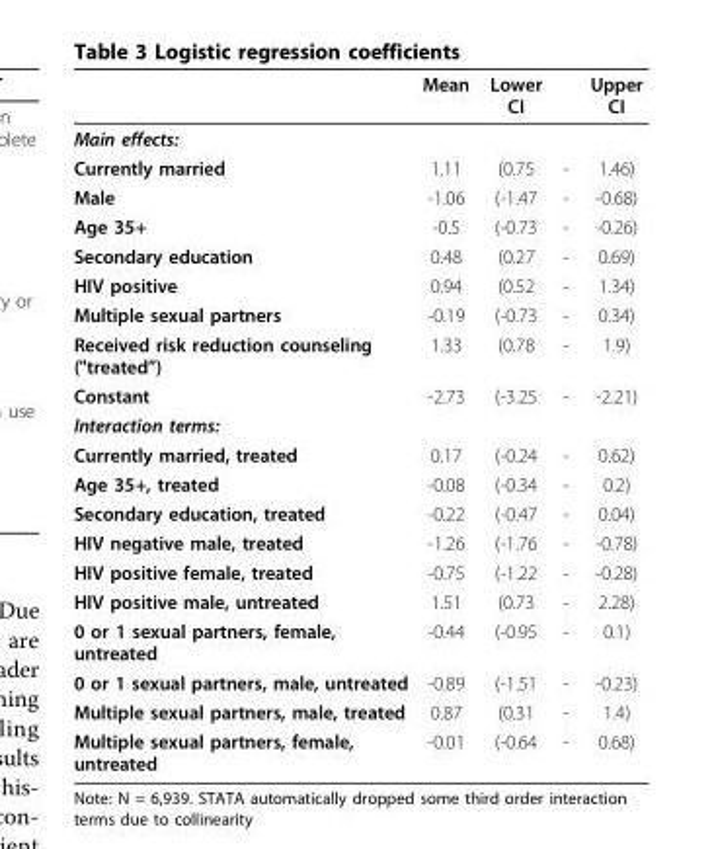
<table><thead><tr><td></td><td>Mean</td><td>Lower CI</td><td></td><td>Upper CI</td></tr></thead><tbody><tr><td colspan="5">Main effects:</td></tr><tr><td>Currently married</td><td>1.11</td><td>(0.75</td><td>-</td><td>1.46)</td></tr><tr><td>Male</td><td>-1.06</td><td>(-1.47</td><td>-</td><td>-0.68)</td></tr><tr><td>Age 35+</td><td>-0.5</td><td>(-0.73</td><td>-</td><td>-0.26)</td></tr><tr><td>Secondary education</td><td>0.48</td><td>(0.27</td><td>-</td><td>0.69)</td></tr><tr><td>HIV positive</td><td>0.94</td><td>(0.52</td><td>-</td><td>1.34)</td></tr><tr><td>Multiple sexual partners</td><td>-0.19</td><td>(-0.73</td><td>-</td><td>0.34)</td></tr><tr><td>Received risk reduction counseling (&quot;treated”)</td><td>1.33</td><td>(0.78</td><td>-</td><td>1.9)</td></tr><tr><td>Constant</td><td>-2.73</td><td>(-3.25</td><td>-</td><td>-2.21)</td></tr><tr><td colspan="5">Interaction terms:</td></tr><tr><td>Currently married, treated</td><td>0.17</td><td>(-0.24</td><td>-</td><td>0.62)</td></tr><tr><td>Age 35+, treated</td><td>-0.08</td><td>(-0.34</td><td>-</td><td>0.2)</td></tr><tr><td>Secondary education, treated</td><td>-0.22</td><td>(-0.47</td><td>-</td><td>0.04)</td></tr><tr><td>HIV negative male, treated</td><td>-1.26</td><td>(-1.76</td><td>-</td><td>-0.78)</td></tr><tr><td>HIV positive female, treated</td><td>-0.75</td><td>(-1.22</td><td>-</td><td>-0.28)</td></tr><tr><td>HIV positive male, untreated</td><td>1.51</td><td>(0.73</td><td>-</td><td>2.28)</td></tr><tr><td>0 or 1 sexual partners, female, untreated</td><td>-0.44</td><td>(-0.95</td><td>-</td><td>0.1)</td></tr><tr><td>0 or 1 sexual partners, male, untreated</td><td>-0.89</td><td>(-1.51</td><td>-</td><td>-0.23)</td></tr><tr><td>Multiple sexual partners, male, treated</td><td>0.87</td><td>(0.31</td><td>-</td><td>1.4)</td></tr><tr><td>Multiple sexual partners, female, untreated</td><td>-0.01</td><td>(-0.64</td><td>-</td><td>0.68)</td></tr></tbody></table>